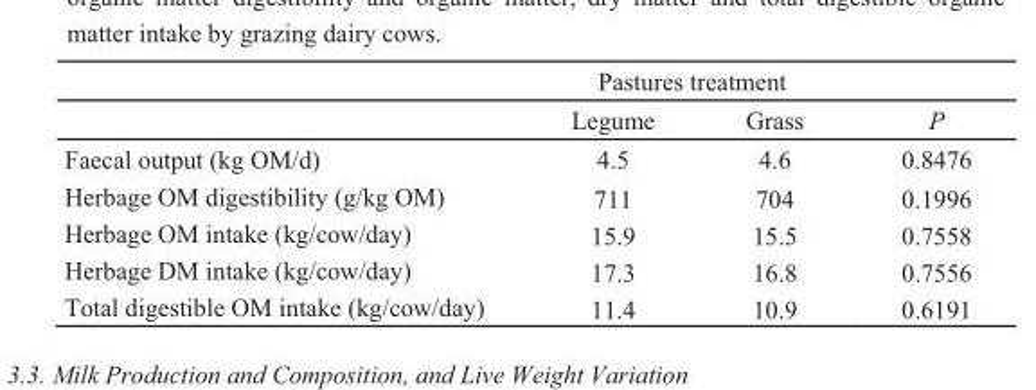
<table><thead><tr><td rowspan="2"></td><td colspan="2">Pastures treatment</td><td rowspan="2">P</td></tr><tr><td>Legume</td><td>Grass</td></tr></thead><tbody><tr><td>Faecal output (kg OM/d)</td><td>4.5</td><td>4.6</td><td>0.8476</td></tr><tr><td>Herbage OM digestibility (g/kg OM)</td><td>711</td><td>704</td><td>0.1996</td></tr><tr><td>Herbage OM intake (kg/cow/day)</td><td>15.9</td><td>15.5</td><td>0.7558</td></tr><tr><td>Herbage DM intake (kg/cow/day)</td><td>17.3</td><td>16.8</td><td>0.7556</td></tr><tr><td>Total digestible OM intake (kg/cow/day)</td><td>11.4</td><td>10.9</td><td>0.6191</td></tr></tbody></table>